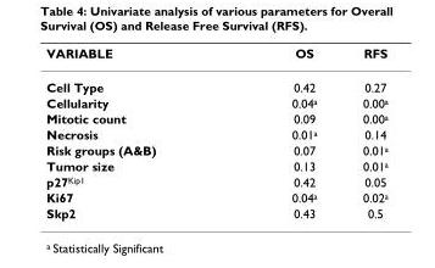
<table><thead><tr><td>VARIABLE</td><td>OS</td><td>RFS</td></tr></thead><tbody><tr><td>Cell Type</td><td>0.42</td><td>0.27</td></tr><tr><td>Cellularity</td><td>0.04<sup>a</sup></td><td>0.00<sup>a</sup></td></tr><tr><td>Mitotic count</td><td>0.09</td><td>0.00<sup>a</sup></td></tr><tr><td>Necrosis</td><td>0.01<sup>a</sup></td><td>0.14</td></tr><tr><td>Risk groups (A&amp;B)</td><td>0.07</td><td>0.01<sup>a</sup></td></tr><tr><td>Tumor size</td><td>0.13</td><td>0.01<sup>a</sup></td></tr><tr><td>p27<sup>Kip1</sup></td><td>0.42</td><td>0.05</td></tr><tr><td>Ki67</td><td>0.04<sup>a</sup></td><td>0.02<sup>a</sup></td></tr><tr><td>Skp2</td><td>0.43</td><td>0.5</td></tr></tbody></table>